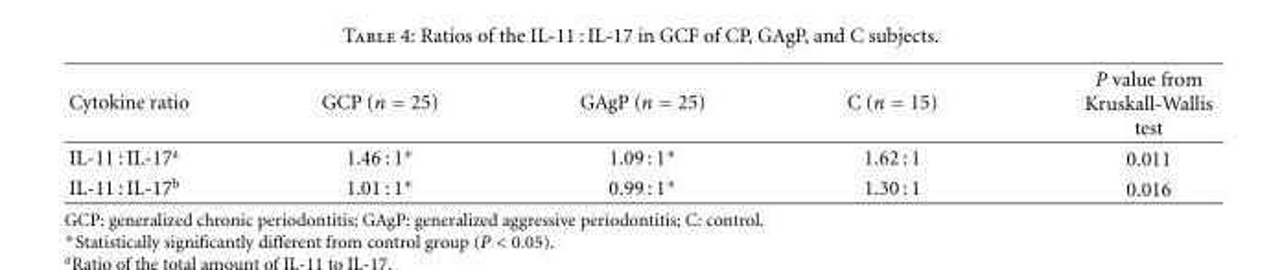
<table><thead><tr><td>Cytokine ratio</td><td>GCP (n = 25)</td><td>GAgP (n = 25)</td><td>C (n = 15)</td><td>P value from Kruskall-Wallis test</td></tr></thead><tbody><tr><td>IL-11 : IL-17<sup>a</sup></td><td>1.46 : 1∗</td><td>1.09 : 1∗</td><td>1.62 : 1</td><td>0.011</td></tr><tr><td>IL-11 : IL-17<sup>b</sup></td><td>1.01 : 1∗</td><td>0.99 : 1∗</td><td>1.30 : 1</td><td>0.016</td></tr></tbody></table>